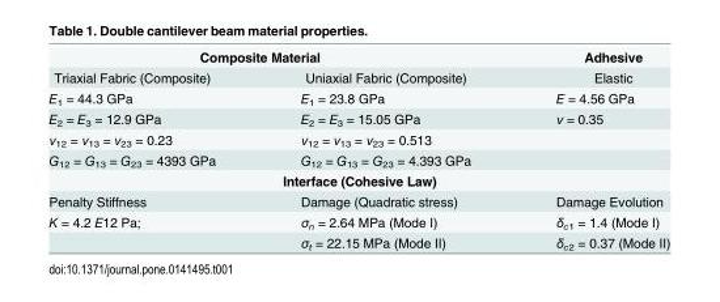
<table><tbody><tr><td colspan="2">Composite Material</td><td>Adhesive</td></tr><tr><td>Triaxial Fabric (Composite)</td><td>Uniaxial Fabric (Composite)</td><td>Elastic</td></tr><tr><td>E<sub>1</sub> = 44.3 GPa</td><td>E<sub>1</sub> = 23.8 GPa</td><td>E = 4.56 GPa</td></tr><tr><td>E<sub>2</sub> = E<sub>3</sub> = 12.9 GPa</td><td>E<sub>2</sub> = E<sub>3</sub> = 15.05 GPa</td><td>ν = 0.35</td></tr><tr><td>ν<sub>12</sub> = ν<sub>13</sub> = ν<sub>23</sub> = 0.23</td><td>ν<sub>12</sub> = ν<sub>13</sub> = ν<sub>23</sub> = 0.513</td><td></td></tr><tr><td>G<sub>12</sub> = G<sub>13</sub> = G<sub>23</sub> = 4393 GPa</td><td>G<sub>12</sub> = G<sub>13</sub> = G<sub>23</sub> = 4.393 GPa</td><td></td></tr><tr><td colspan="3">Interface (Cohesive Law)</td></tr><tr><td>Penalty Stiffness</td><td>Damage (Quadratic stress)</td><td>Damage Evolution</td></tr><tr><td rowspan="2">K = 4.2 E12 Pa;</td><td>σ<sub>n</sub> = 2.64 MPa (Mode I)</td><td>δ<sub>c1</sub> = 1.4 (Mode I)</td></tr><tr><td>σ<sub>t</sub> = 22.15 MPa (Mode II)</td><td>δ<sub>c2</sub> = 0.37 (Mode II)</td></tr></tbody></table>